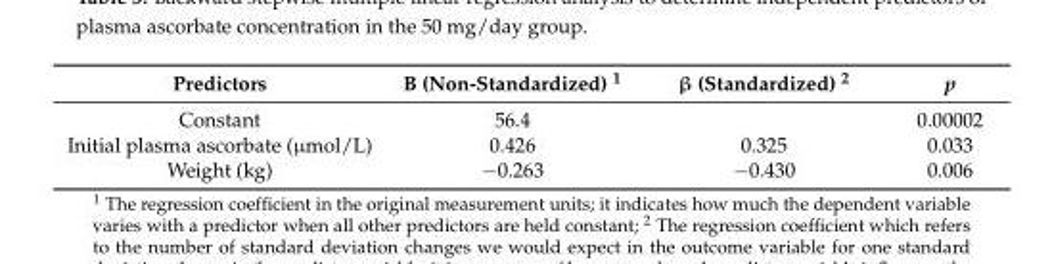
<table><thead><tr><td>Predictors</td><td>B (Non-Standardized) <sup>1</sup></td><td>β (Standardized) <sup>2</sup></td><td>p</td></tr></thead><tbody><tr><td>Constant</td><td>56.4</td><td></td><td>0.00002</td></tr><tr><td>Initial plasma ascorbate (µmol/L)</td><td>0.426</td><td>0.325</td><td>0.033</td></tr><tr><td>Weight (kg)</td><td>−0.263</td><td>−0.430</td><td>0.006</td></tr></tbody></table>